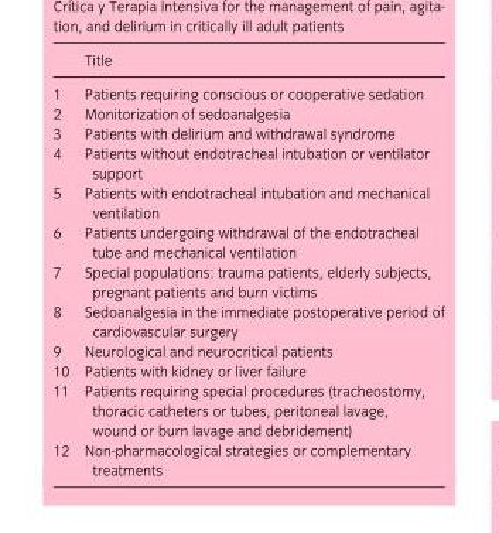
<table><thead><tr><td></td><td>Title</td></tr></thead><tbody><tr><td>1</td><td>Patients requiring conscious or cooperative sedation</td></tr><tr><td>2</td><td>Monitorization of sedoanalgesia</td></tr><tr><td>3</td><td>Patients with delirium and withdrawal syndrome</td></tr><tr><td>4</td><td>Patients without endotracheal intubation or ventilator support</td></tr><tr><td>5</td><td>Patients with endotracheal intubation and mechanical ventilation</td></tr><tr><td>6</td><td>Patients undergoing withdrawal of the endotracheal tube and mechanical ventilation</td></tr><tr><td>7</td><td>Special populations: trauma patients, elderly subjects, pregnant patients and burn victims</td></tr><tr><td>8</td><td>Sedoanalgesia in the immediate postoperative period of cardiovascular surgery</td></tr><tr><td>9</td><td>Neurological and neurocritical patients</td></tr><tr><td>10</td><td>Patients with kidney or liver failure</td></tr><tr><td>11</td><td>Patients requiring special procedures (tracheostomy, thoracic catheters or tubes, peritoneal lavage, wound or burn lavage and debridement)</td></tr><tr><td>12</td><td>Non-pharmacological strategies or complementary treatments</td></tr></tbody></table>